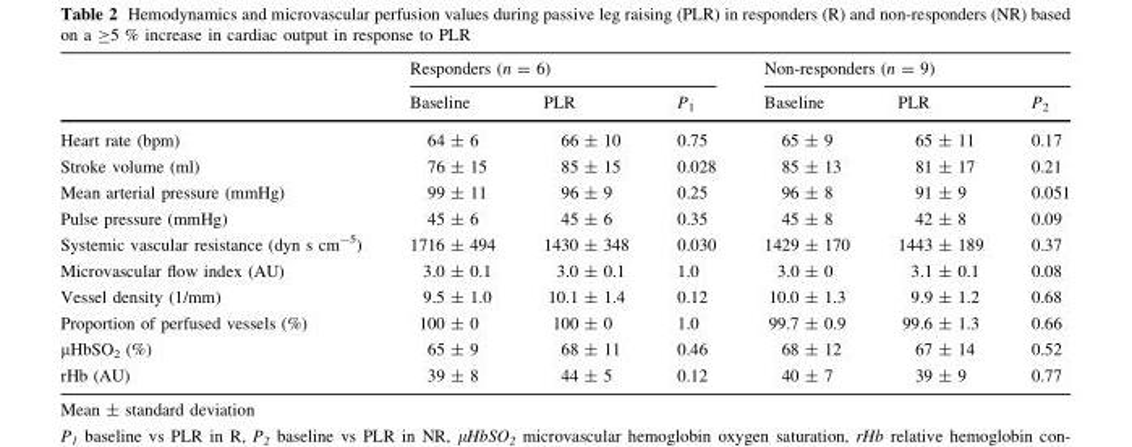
<table><thead><tr><td rowspan="2"></td><td colspan="3">Responders (n = 6)</td><td colspan="3">Non-responders (n = 9)</td></tr><tr><td>Baseline</td><td>PLR</td><td>P<sub>1</sub></td><td>Baseline</td><td>PLR</td><td>P<sub>2</sub></td></tr></thead><tbody><tr><td>Heart rate (bpm)</td><td>64 ± 6</td><td>66 ± 10</td><td>0.75</td><td>65 ± 9</td><td>65 ± 11</td><td>0.17</td></tr><tr><td>Stroke volume (ml)</td><td>76 ± 15</td><td>85 ± 15</td><td>0.028</td><td>85 ± 13</td><td>81 ± 17</td><td>0.21</td></tr><tr><td>Mean arterial pressure (mmHg)</td><td>99 ± 11</td><td>96 ± 9</td><td>0.25</td><td>96 ± 8</td><td>91 ± 9</td><td>0.051</td></tr><tr><td>Pulse pressure (mmHg)</td><td>45 ± 6</td><td>45 ± 6</td><td>0.35</td><td>45 ± 8</td><td>42 ± 8</td><td>0.09</td></tr><tr><td>Systemic vascular resistance (dyn s cm<sup>-5</sup>)</td><td>1716 ± 494</td><td>1430 ± 348</td><td>0.030</td><td>1429 ± 170</td><td>1443 ± 189</td><td>0.37</td></tr><tr><td>Microvascular flow index (AU)</td><td>3.0 ± 0.1</td><td>3.0 ± 0.1</td><td>1.0</td><td>3.0 ± 0</td><td>3.1 ± 0.1</td><td>0.08</td></tr><tr><td>Vessel density (1/mm)</td><td>9.5 ± 1.0</td><td>10.1 ± 1.4</td><td>0.12</td><td>10.0 ± 1.3</td><td>9.9 ± 1.2</td><td>0.68</td></tr><tr><td>Proportion of perfused vessels (%)</td><td>100 ± 0</td><td>100 ± 0</td><td>1.0</td><td>99.7 ± 0.9</td><td>99.6 ± 1.3</td><td>0.66</td></tr><tr><td>µHbSO<sub>2</sub> (%)</td><td>65 ± 9</td><td>68 ± 11</td><td>0.46</td><td>68 ± 12</td><td>67 ± 14</td><td>0.52</td></tr><tr><td>rHb (AU)</td><td>39 ± 8</td><td>44 ± 5</td><td>0.12</td><td>40 ± 7</td><td>39 ± 9</td><td>0.77</td></tr></tbody></table>